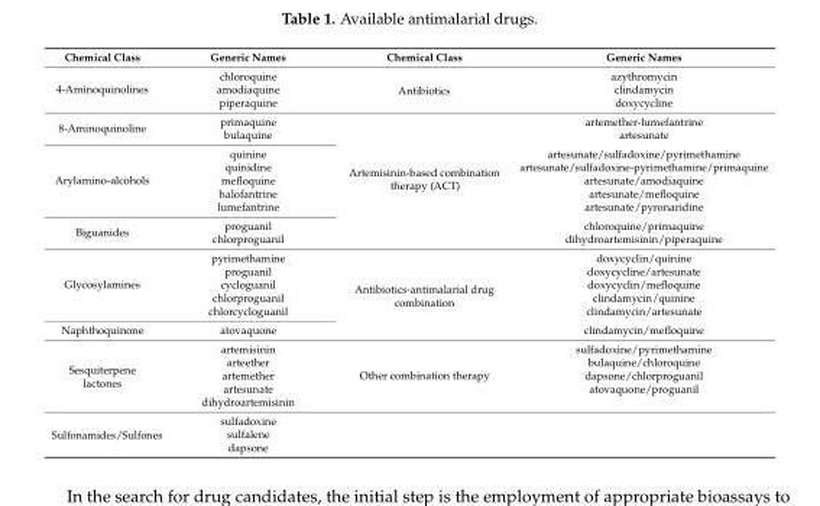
<table><thead><tr><td>Chemical Class</td><td>Generic Names</td><td>Chemical Class</td><td>Generic Names</td></tr></thead><tbody><tr><td rowspan="3">4-Aminoquinolines</td><td>chloroquine</td><td rowspan="3">Antibiotics</td><td>azythromycin</td></tr><tr><td>amodiaquine</td><td>clindamycin</td></tr><tr><td>piperaquine</td><td>doxycycline</td></tr><tr><td rowspan="2">8-Aminoquinoline</td><td>primaquine</td><td rowspan="9">Artemisinin-based combination therapy (ACT)</td><td>artemether-lumefantrine</td></tr><tr><td>bulaquine</td><td>artesunate</td></tr><tr><td rowspan="5">Arylamino-alcohols</td><td>quinine</td><td>artesunate/sulfadoxine/pyrimethamine</td></tr><tr><td>quinidine</td><td>artesunate/sulfadoxine-pyrimethamine/primaquine</td></tr><tr><td>mefloquine</td><td>artesunate/amodiaquine</td></tr><tr><td>halofantrine</td><td>artesunate/mefloquine</td></tr><tr><td>lumefantrine</td><td>artesunate/pyronaridine</td></tr><tr><td rowspan="2">Biguanides</td><td>proguanil</td><td>chloroquine/primaquine</td></tr><tr><td>chlorproguanil</td><td>dihydroartemisinin/piperaquine</td></tr><tr><td rowspan="5">Glycosylamines</td><td>pyrimethamine</td><td rowspan="6">Antibiotics-antimalarial drug combination</td><td>doxycyclin/quinine</td></tr><tr><td>proguanil</td><td>doxycycline/artesunate</td></tr><tr><td>cycloguanil</td><td>doxycyclin/mefloquine</td></tr><tr><td>chlorproguanil</td><td>clindamycin/quinine</td></tr><tr><td>chlorcycloguanil</td><td>clindamycin/artesunate</td></tr><tr><td>Naphthoquinone</td><td>atovaquone</td><td>clindamycin/mefloquine</td></tr><tr><td rowspan="5">Sesquiterpene lactones</td><td>artemisinin</td><td rowspan="5">Other combination therapy</td><td>sulfadoxine/pyrimethamine</td></tr><tr><td>arteether</td><td>bulaquine/chloroquine</td></tr><tr><td>artemether</td><td>dapsone/chlorproguanil</td></tr><tr><td>artesunate</td><td>atovaquone/proguanil</td></tr><tr><td>dihydroartemisinin</td><td></td></tr><tr><td rowspan="3">Sulfonamides/Sulfones</td><td>sulfadoxine</td><td rowspan="3"></td><td rowspan="3"></td></tr><tr><td>sulfalene</td></tr><tr><td>dapsone</td></tr></tbody></table>